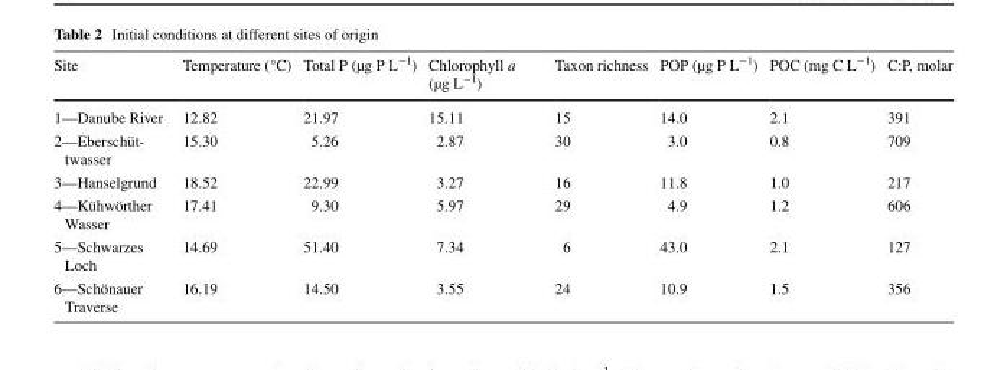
<table><thead><tr><td>Site</td><td>Temperature (°C)</td><td>Total P (µg P L<sup>−1</sup>)</td><td>Chlorophyll a (µg L<sup>−1</sup>)</td><td>Taxon richness</td><td>POP (µg P L<sup>−1</sup>)</td><td>POC (mg C L<sup>−1</sup>)</td><td>C:P, molar</td></tr></thead><tbody><tr><td>1—Danube River</td><td>12.82</td><td>21.97</td><td>15.11</td><td>15</td><td>14.0</td><td>2.1</td><td>391</td></tr><tr><td>2—Eberschüt- twasser</td><td>15.30</td><td>5.26</td><td>2.87</td><td>30</td><td>3.0</td><td>0.8</td><td>709</td></tr><tr><td>3—Hanselgrund</td><td>18.52</td><td>22.99</td><td>3.27</td><td>16</td><td>11.8</td><td>1.0</td><td>217</td></tr><tr><td>4—Kühwörther Wasser</td><td>17.41</td><td>9.30</td><td>5.97</td><td>29</td><td>4.9</td><td>1.2</td><td>606</td></tr><tr><td>5—Schwarzes Loch</td><td>14.69</td><td>51.40</td><td>7.34</td><td>6</td><td>43.0</td><td>2.1</td><td>127</td></tr><tr><td>6—Schönauer Traverse</td><td>16.19</td><td>14.50</td><td>3.55</td><td>24</td><td>10.9</td><td>1.5</td><td>356</td></tr></tbody></table>